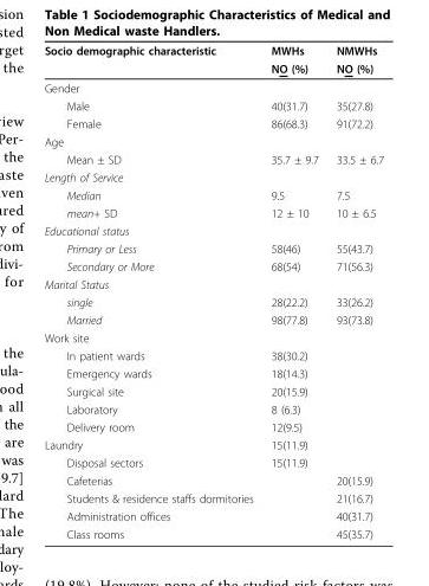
<table><thead><tr><td rowspan="2">Socio demographic characteristic</td><td rowspan="2">MWHs NO (%)</td><td rowspan="2">NMWHs NO (%)</td></tr><tr></tr></thead><tbody><tr><td colspan="3">Gender</td></tr><tr><td>Male</td><td>40(31.7)</td><td>35(27.8)</td></tr><tr><td>Female</td><td>86(68.3)</td><td>91(72.2)</td></tr><tr><td colspan="3">Age</td></tr><tr><td>Mean ± SD</td><td>35.7 ± 9.7</td><td>33.5 ± 6.7</td></tr><tr><td colspan="3">Length of Service</td></tr><tr><td>Median</td><td>9.5</td><td>7.5</td></tr><tr><td>mean+ SD</td><td>12 ± 10</td><td>10 ± 6.5</td></tr><tr><td colspan="3">Educational status</td></tr><tr><td>Primary or Less</td><td>58(46)</td><td>55(43.7)</td></tr><tr><td>Secondary or More</td><td>68(54)</td><td>71(56.3)</td></tr><tr><td colspan="3">Marital Status</td></tr><tr><td>single</td><td>28(22.2)</td><td>33(26.2)</td></tr><tr><td>Married</td><td>98(77.8)</td><td>93(73.8)</td></tr><tr><td colspan="3">Work site</td></tr><tr><td>In patient wards</td><td>38(30.2)</td><td></td></tr><tr><td>Emergency wards</td><td>18(14.3)</td><td></td></tr><tr><td>Surgical site</td><td>20(15.9)</td><td></td></tr><tr><td>Laboratory</td><td>8 (6.3)</td><td></td></tr><tr><td>Delivery room</td><td>12(9.5)</td><td></td></tr><tr><td>Laundry</td><td>15(11.9)</td><td></td></tr><tr><td>Disposal sectors</td><td>15(11.9)</td><td></td></tr><tr><td>Cafeterias</td><td></td><td>20(15.9)</td></tr><tr><td>Students &amp; residence staffs dormitories</td><td></td><td>21(16.7)</td></tr><tr><td>Administration offices</td><td></td><td>40(31.7)</td></tr><tr><td>Class rooms</td><td></td><td>45(35.7)</td></tr></tbody></table>